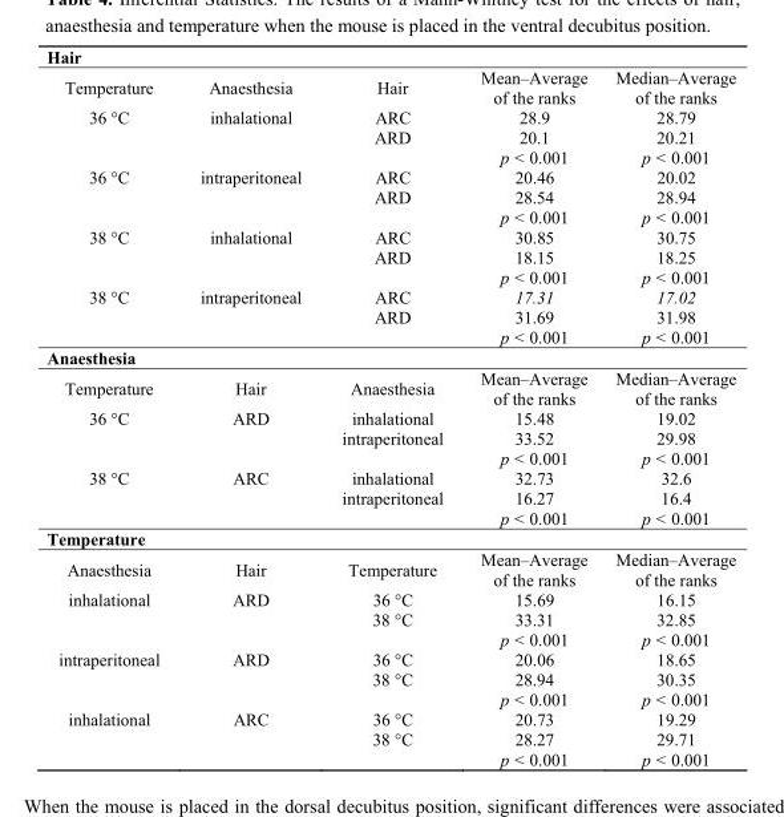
<table><thead><tr><td colspan="5">Hair</td></tr><tr><td>Temperature</td><td>Anaesthesia</td><td>Hair</td><td>Mean–Average of the ranks</td><td>Median–Average of the ranks</td></tr></thead><tbody><tr><td rowspan="3">36 °C</td><td>inhalational</td><td>ARC</td><td>28.9</td><td>28.79</td></tr><tr><td></td><td>ARD</td><td>20.1</td><td>20.21</td></tr><tr><td></td><td></td><td>p &lt; 0.001</td><td>p &lt; 0.001</td></tr><tr><td rowspan="3">36 °C</td><td>intraperitoneal</td><td>ARC</td><td>20.46</td><td>20.02</td></tr><tr><td></td><td>ARD</td><td>28.54</td><td>28.94</td></tr><tr><td></td><td></td><td>p &lt; 0.001</td><td>p &lt; 0.001</td></tr><tr><td rowspan="3">38 °C</td><td>inhalational</td><td>ARC</td><td>30.85</td><td>30.75</td></tr><tr><td></td><td>ARD</td><td>18.15</td><td>18.25</td></tr><tr><td></td><td></td><td>p &lt; 0.001</td><td>p &lt; 0.001</td></tr><tr><td rowspan="3">38 °C</td><td>intraperitoneal</td><td>ARC</td><td>17.31</td><td>17.02</td></tr><tr><td></td><td>ARD</td><td>31.69</td><td>31.98</td></tr><tr><td></td><td></td><td>p &lt; 0.001</td><td>p &lt; 0.001</td></tr><tr><td colspan="5">Anaesthesia</td></tr><tr><td>Temperature</td><td>Hair</td><td>Anaesthesia</td><td>Mean–Average of the ranks</td><td>Median–Average of the ranks</td></tr><tr><td rowspan="3">36 °C</td><td>ARD</td><td>inhalational</td><td>15.48</td><td>19.02</td></tr><tr><td></td><td>intraperitoneal</td><td>33.52</td><td>29.98</td></tr><tr><td></td><td></td><td>p &lt; 0.001</td><td>p &lt; 0.001</td></tr><tr><td rowspan="3">38 °C</td><td>ARC</td><td>inhalational</td><td>32.73</td><td>32.6</td></tr><tr><td></td><td>intraperitoneal</td><td>16.27</td><td>16.4</td></tr><tr><td></td><td></td><td>p &lt; 0.001</td><td>p &lt; 0.001</td></tr><tr><td colspan="5">Temperature</td></tr><tr><td>Anaesthesia</td><td>Hair</td><td>Temperature</td><td>Mean–Average of the ranks</td><td>Median–Average of the ranks</td></tr><tr><td rowspan="3">inhalational</td><td>ARD</td><td>36 °C</td><td>15.69</td><td>16.15</td></tr><tr><td></td><td>38 °C</td><td>33.31</td><td>32.85</td></tr><tr><td></td><td></td><td>p &lt; 0.001</td><td>p &lt; 0.001</td></tr><tr><td rowspan="3">intraperitoneal</td><td>ARD</td><td>36 °C</td><td>20.06</td><td>18.65</td></tr><tr><td></td><td>38 °C</td><td>28.94</td><td>30.35</td></tr><tr><td></td><td></td><td>p &lt; 0.001</td><td>p &lt; 0.001</td></tr><tr><td rowspan="3">inhalational</td><td>ARC</td><td>36 °C</td><td>20.73</td><td>19.29</td></tr><tr><td></td><td>38 °C</td><td>28.27</td><td>29.71</td></tr><tr><td></td><td></td><td>p &lt; 0.001</td><td>p &lt; 0.001</td></tr></tbody></table>